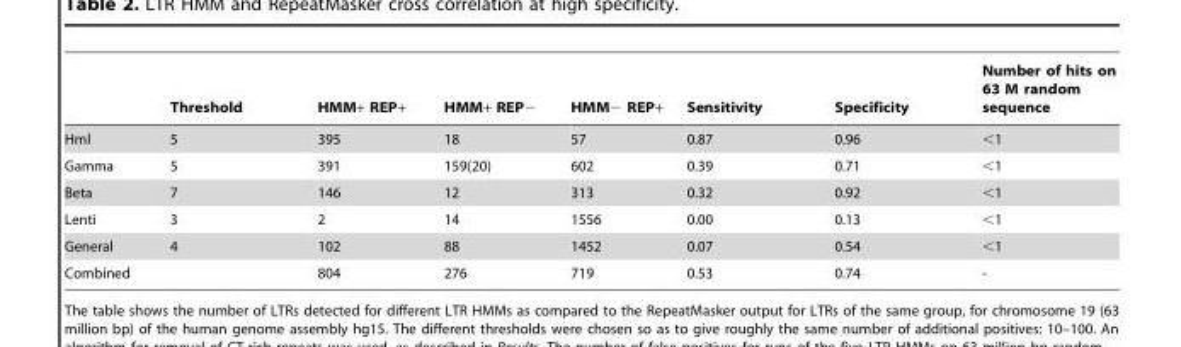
<table><thead><tr><td></td><td>Threshold</td><td>HMM+ REP+</td><td>HMM+ REP−</td><td>HMM− REP+</td><td>Sensitivity</td><td>Specificity</td><td>Number of hits on 63 M random sequence</td></tr></thead><tbody><tr><td>Hml</td><td>5</td><td>395</td><td>18</td><td>57</td><td>0.87</td><td>0.96</td><td>&lt;1</td></tr><tr><td>Gamma</td><td>5</td><td>391</td><td>159(20)</td><td>602</td><td>0.39</td><td>0.71</td><td>&lt;1</td></tr><tr><td>Beta</td><td>7</td><td>146</td><td>12</td><td>313</td><td>0.32</td><td>0.92</td><td>&lt;1</td></tr><tr><td>Lenti</td><td>3</td><td>2</td><td>14</td><td>1556</td><td>0.00</td><td>0.13</td><td>&lt;1</td></tr><tr><td>General</td><td>4</td><td>102</td><td>88</td><td>1452</td><td>0.07</td><td>0.54</td><td>&lt;1</td></tr><tr><td>Combined</td><td></td><td>804</td><td>276</td><td>719</td><td>0.53</td><td>0.74</td><td>-</td></tr></tbody></table>